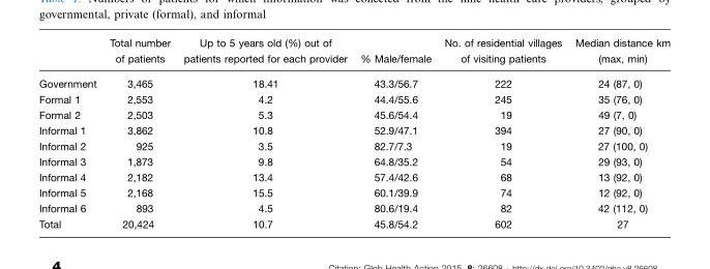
<table><thead><tr><td></td><td>Total number of patients</td><td>Up to 5 years old (%) out of patients reported for each provider</td><td>% Male/female</td><td>No. of residential villages of visiting patients</td><td>Median distance km (max, min)</td></tr></thead><tbody><tr><td>Government</td><td>3,465</td><td>18.41</td><td>43.3/56.7</td><td>222</td><td>24 (87, 0)</td></tr><tr><td>Formal 1</td><td>2,553</td><td>4.2</td><td>44.4/55.6</td><td>245</td><td>35 (76, 0)</td></tr><tr><td>Formal 2</td><td>2,503</td><td>5.3</td><td>45.6/54.4</td><td>19</td><td>49 (7, 0)</td></tr><tr><td>Informal 1</td><td>3,862</td><td>10.8</td><td>52.9/47.1</td><td>394</td><td>27 (90, 0)</td></tr><tr><td>Informal 2</td><td>925</td><td>3.5</td><td>82.7/7.3</td><td>19</td><td>27 (100, 0)</td></tr><tr><td>Informal 3</td><td>1,873</td><td>9.8</td><td>64.8/35.2</td><td>54</td><td>29 (93, 0)</td></tr><tr><td>Informal 4</td><td>2,182</td><td>13.4</td><td>57.4/42.6</td><td>68</td><td>13 (92, 0)</td></tr><tr><td>Informal 5</td><td>2,168</td><td>15.5</td><td>60.1/39.9</td><td>74</td><td>12 (92, 0)</td></tr><tr><td>Informal 6</td><td>893</td><td>4.5</td><td>80.6/19.4</td><td>82</td><td>42 (112, 0)</td></tr><tr><td>Total</td><td>20,424</td><td>10.7</td><td>45.8/54.2</td><td>602</td><td>27</td></tr></tbody></table>